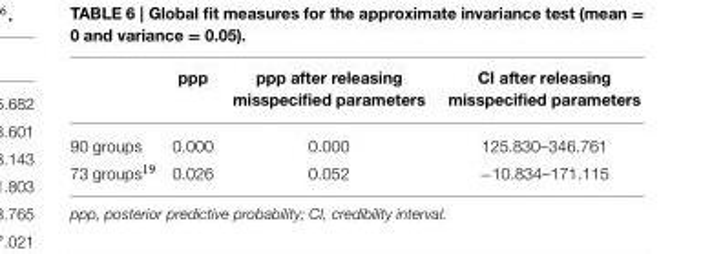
<table><thead><tr><td></td><td>ppp</td><td>ppp after releasing misspecified parameters</td><td>CI after releasing misspecified parameters</td></tr></thead><tbody><tr><td>90 groups</td><td>0.000</td><td>0.000</td><td>125.830–346.761</td></tr><tr><td>73 groups<sup>19</sup></td><td>0.026</td><td>0.052</td><td>−10.834–171.115</td></tr></tbody></table>